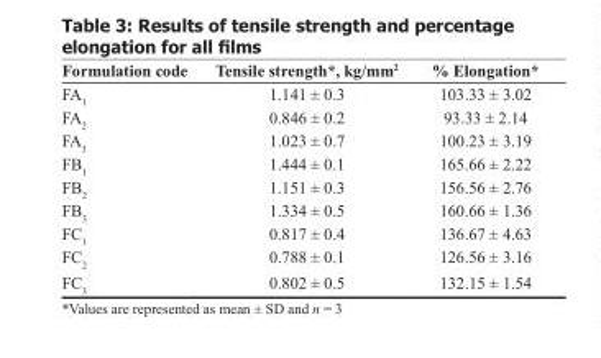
<table><thead><tr><td>Formulation code</td><td>Tensile strength*, kg/mm<sup>2</sup></td><td>% Elongation*</td></tr></thead><tbody><tr><td>FA<sub>1</sub></td><td>1.141 ± 0.3</td><td>103.33 ± 3.02</td></tr><tr><td>FA<sub>2</sub></td><td>0.846 ± 0.2</td><td>93.33 ± 2.14</td></tr><tr><td>FA<sub>3</sub></td><td>1.023 ± 0.7</td><td>100.23 ± 3.19</td></tr><tr><td>FB<sub>1</sub></td><td>1.444 ± 0.1</td><td>165.66 ± 2.22</td></tr><tr><td>FB<sub>2</sub></td><td>1.151 ± 0.3</td><td>156.56 ± 2.76</td></tr><tr><td>FB<sub>3</sub></td><td>1.334 ± 0.5</td><td>160.66 ± 1.36</td></tr><tr><td>FC<sub>1</sub></td><td>0.817 ± 0.4</td><td>136.67 ± 4.63</td></tr><tr><td>FC<sub>2</sub></td><td>0.788 ± 0.1</td><td>126.56 ± 3.16</td></tr><tr><td>FC<sub>3</sub></td><td>0.802 ± 0.5</td><td>132.15 ± 1.54</td></tr></tbody></table>